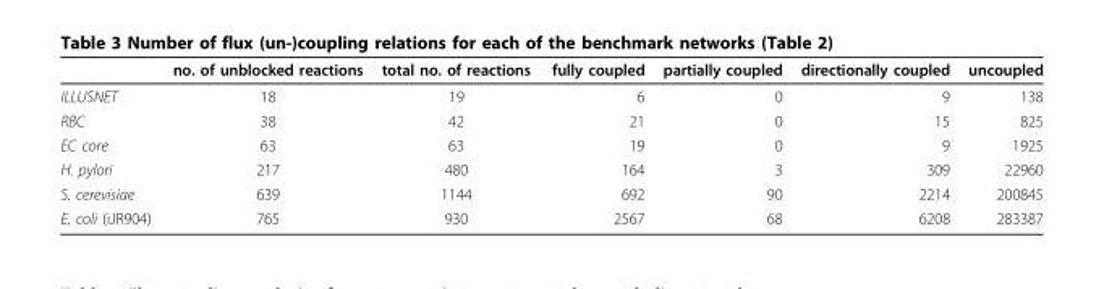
<table><thead><tr><td></td><td>no. of unblocked reactions</td><td>total no. of reactions</td><td>fully coupled</td><td>partially coupled</td><td>directionally coupled</td><td>uncoupled</td></tr></thead><tbody><tr><td>ILLUSNET</td><td>18</td><td>19</td><td>6</td><td>0</td><td>9</td><td>138</td></tr><tr><td>RBC</td><td>38</td><td>42</td><td>21</td><td>0</td><td>15</td><td>825</td></tr><tr><td>EC core</td><td>63</td><td>63</td><td>19</td><td>0</td><td>9</td><td>1925</td></tr><tr><td>H. pylori</td><td>217</td><td>480</td><td>164</td><td>3</td><td>309</td><td>22960</td></tr><tr><td>S. cerevisiae</td><td>639</td><td>1144</td><td>692</td><td>90</td><td>2214</td><td>200845</td></tr><tr><td>E. coli (iJR904)</td><td>765</td><td>930</td><td>2567</td><td>68</td><td>6208</td><td>283387</td></tr></tbody></table>